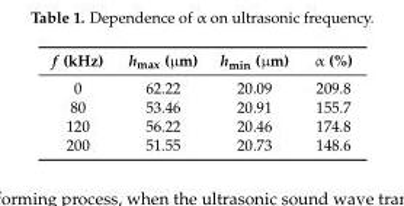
<table><thead><tr><td>f (kHz)</td><td>h<sub>max</sub> (µm)</td><td>h<sub>min</sub> (µm)</td><td>α (%)</td></tr></thead><tbody><tr><td>0</td><td>62.22</td><td>20.09</td><td>209.8</td></tr><tr><td>80</td><td>53.46</td><td>20.91</td><td>155.7</td></tr><tr><td>120</td><td>56.22</td><td>20.46</td><td>174.8</td></tr><tr><td>200</td><td>51.55</td><td>20.73</td><td>148.6</td></tr></tbody></table>